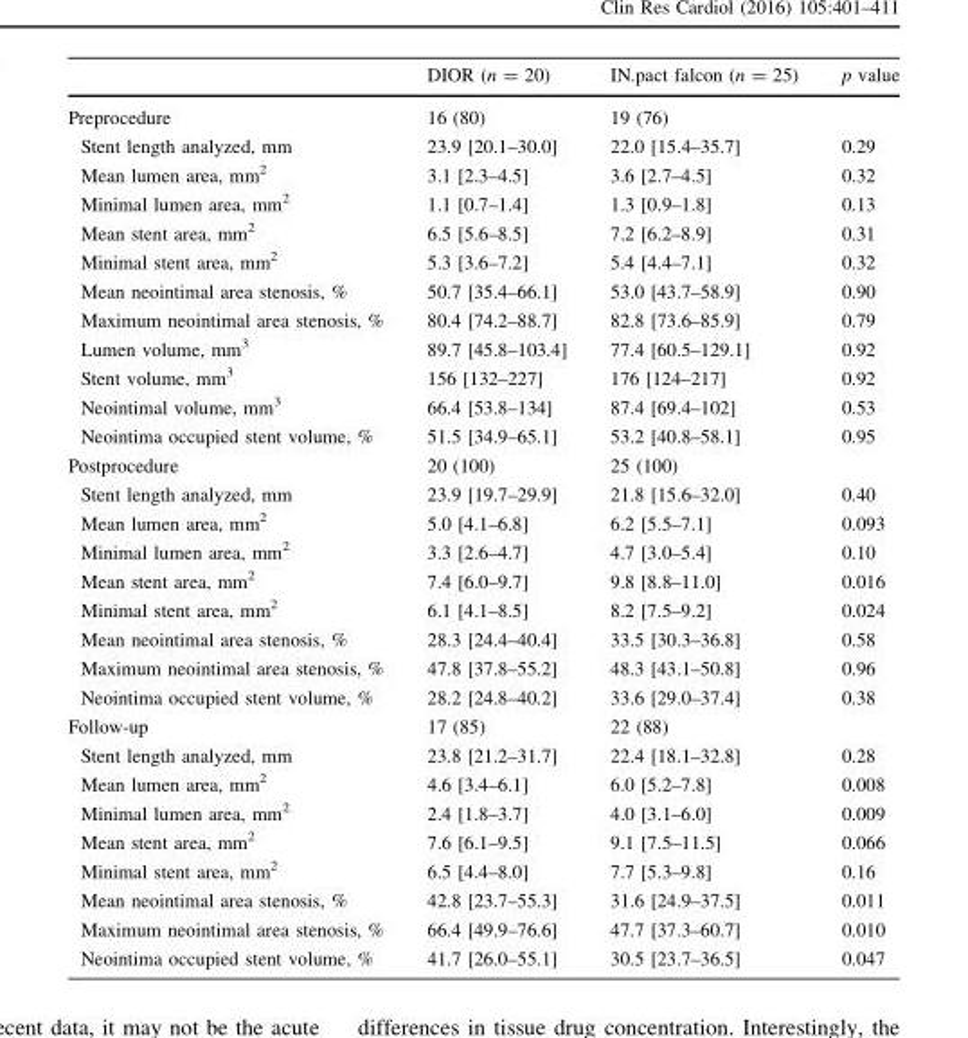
<table><thead><tr><td></td><td>DIOR (n = 20)</td><td>IN.pact falcon (n = 25)</td><td>p value</td></tr></thead><tbody><tr><td>Preprocedure</td><td>16 (80)</td><td>19 (76)</td><td></td></tr><tr><td>Stent length analyzed, mm</td><td>23.9 [20.1–30.0]</td><td>22.0 [15.4–35.7]</td><td>0.29</td></tr><tr><td>Mean lumen area, mm<sup>2</sup></td><td>3.1 [2.3–4.5]</td><td>3.6 [2.7–4.5]</td><td>0.32</td></tr><tr><td>Minimal lumen area, mm<sup>2</sup></td><td>1.1 [0.7–1.4]</td><td>1.3 [0.9–1.8]</td><td>0.13</td></tr><tr><td>Mean stent area, mm<sup>2</sup></td><td>6.5 [5.6–8.5]</td><td>7.2 [6.2–8.9]</td><td>0.31</td></tr><tr><td>Minimal stent area, mm<sup>2</sup></td><td>5.3 [3.6–7.2]</td><td>5.4 [4.4–7.1]</td><td>0.32</td></tr><tr><td>Mean neointimal area stenosis, %</td><td>50.7 [35.4–66.1]</td><td>53.0 [43.7–58.9]</td><td>0.90</td></tr><tr><td>Maximum neointimal area stenosis, %</td><td>80.4 [74.2–88.7]</td><td>82.8 [73.6–85.9]</td><td>0.79</td></tr><tr><td>Lumen volume, mm<sup>3</sup></td><td>89.7 [45.8–103.4]</td><td>77.4 [60.5–129.1]</td><td>0.92</td></tr><tr><td>Stent volume, mm<sup>3</sup></td><td>156 [132–227]</td><td>176 [124–217]</td><td>0.92</td></tr><tr><td>Neointimal volume, mm<sup>3</sup></td><td>66.4 [53.8–134]</td><td>87.4 [69.4–102]</td><td>0.53</td></tr><tr><td>Neointima occupied stent volume, %</td><td>51.5 [34.9–65.1]</td><td>53.2 [40.8–58.1]</td><td>0.95</td></tr><tr><td>Postprocedure</td><td>20 (100)</td><td>25 (100)</td><td></td></tr><tr><td>Stent length analyzed, mm</td><td>23.9 [19.7–29.9]</td><td>21.8 [15.6–32.0]</td><td>0.40</td></tr><tr><td>Mean lumen area, mm<sup>2</sup></td><td>5.0 [4.1–6.8]</td><td>6.2 [5.5–7.1]</td><td>0.093</td></tr><tr><td>Minimal lumen area, mm<sup>2</sup></td><td>3.3 [2.6–4.7]</td><td>4.7 [3.0–5.4]</td><td>0.10</td></tr><tr><td>Mean stent area, mm<sup>2</sup></td><td>7.4 [6.0–9.7]</td><td>9.8 [8.8–11.0]</td><td>0.016</td></tr><tr><td>Minimal stent area, mm<sup>2</sup></td><td>6.1 [4.1–8.5]</td><td>8.2 [7.5–9.2]</td><td>0.024</td></tr><tr><td>Mean neointimal area stenosis, %</td><td>28.3 [24.4–40.4]</td><td>33.5 [30.3–36.8]</td><td>0.58</td></tr><tr><td>Maximum neointimal area stenosis, %</td><td>47.8 [37.8–55.2]</td><td>48.3 [43.1–50.8]</td><td>0.96</td></tr><tr><td>Neointima occupied stent volume, %</td><td>28.2 [24.8–40.2]</td><td>33.6 [29.0–37.4]</td><td>0.38</td></tr><tr><td>Follow-up</td><td>17 (85)</td><td>22 (88)</td><td></td></tr><tr><td>Stent length analyzed, mm</td><td>23.8 [21.2–31.7]</td><td>22.4 [18.1–32.8]</td><td>0.28</td></tr><tr><td>Mean lumen area, mm<sup>2</sup></td><td>4.6 [3.4–6.1]</td><td>6.0 [5.2–7.8]</td><td>0.008</td></tr><tr><td>Minimal lumen area, mm<sup>2</sup></td><td>2.4 [1.8–3.7]</td><td>4.0 [3.1–6.0]</td><td>0.009</td></tr><tr><td>Mean stent area, mm<sup>2</sup></td><td>7.6 [6.1–9.5]</td><td>9.1 [7.5–11.5]</td><td>0.066</td></tr><tr><td>Minimal stent area, mm<sup>2</sup></td><td>6.5 [4.4–8.0]</td><td>7.7 [5.3–9.8]</td><td>0.16</td></tr><tr><td>Mean neointimal area stenosis, %</td><td>42.8 [23.7–55.3]</td><td>31.6 [24.9–37.5]</td><td>0.011</td></tr><tr><td>Maximum neointimal area stenosis, %</td><td>66.4 [49.9–76.6]</td><td>47.7 [37.3–60.7]</td><td>0.010</td></tr><tr><td>Neointima occupied stent volume, %</td><td>41.7 [26.0–55.1]</td><td>30.5 [23.7–36.5]</td><td>0.047</td></tr></tbody></table>